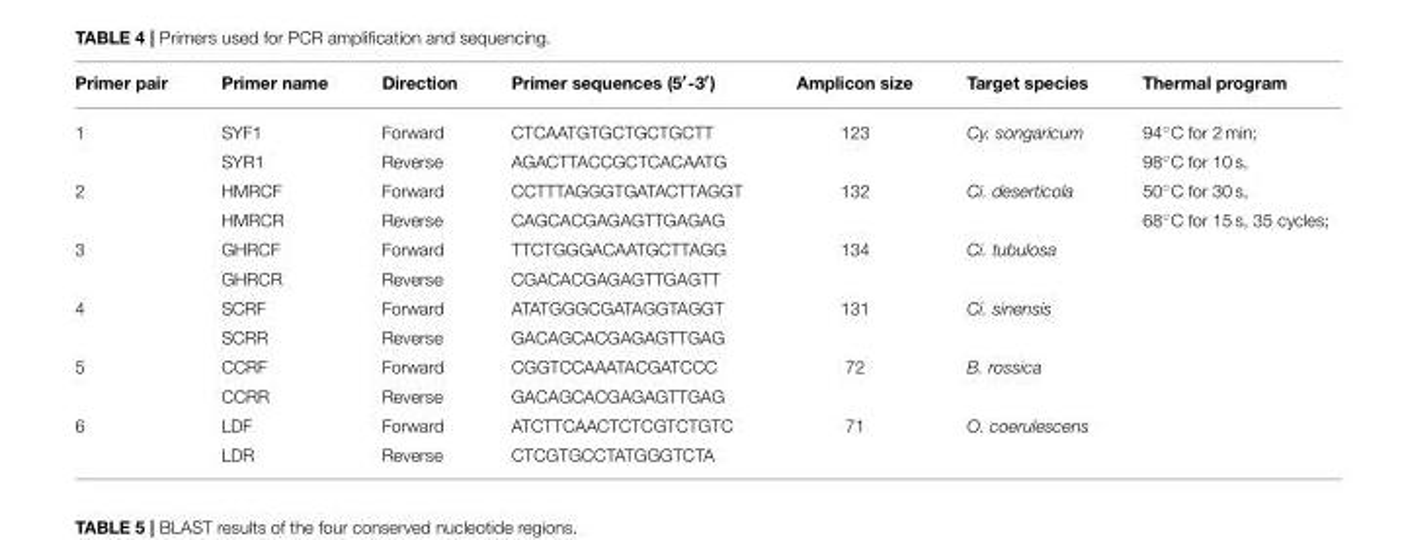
<table><thead><tr><td>Primer pair</td><td>Primer name</td><td>Direction</td><td>Primer sequences (5′-3′)</td><td>Amplicon size</td><td>Target species</td><td>Thermal program</td></tr></thead><tbody><tr><td rowspan="2">1</td><td>SYF1</td><td>Forward</td><td>CTCAATGTGCTGCTGCTT</td><td>123</td><td>Cy. songaricum</td><td>94◦C for 2 min;</td></tr><tr><td>SYR1</td><td>Reverse</td><td>AGACTTACCGCTCACAATG</td><td></td><td></td><td>98◦C for 10 s,</td></tr><tr><td rowspan="2">2</td><td>HMRCF</td><td>Forward</td><td>CCTTTAGGGTGATACTTAGGT</td><td>132</td><td>Ci. deserticola</td><td>50◦C for 30 s,</td></tr><tr><td>HMRCR</td><td>Reverse</td><td>CAGCACGAGAGTTGAGAG</td><td></td><td></td><td>68◦C for 15 s, 35 cycles;</td></tr><tr><td rowspan="2">3</td><td>GHRCF</td><td>Forward</td><td>TTCTGGGACAATGCTTAGG</td><td>134</td><td>Ci. tubulosa</td><td></td></tr><tr><td>GHRCR</td><td>Reverse</td><td>CGACACGAGAGTTGAGTT</td><td></td><td></td><td></td></tr><tr><td rowspan="2">4</td><td>SCRF</td><td>Forward</td><td>ATATGGGCGATAGGTAGGT</td><td>131</td><td>Ci. sinensis</td><td></td></tr><tr><td>SCRR</td><td>Reverse</td><td>GACAGCACGAGAGTTGAG</td><td></td><td></td><td></td></tr><tr><td rowspan="2">5</td><td>CCRF</td><td>Forward</td><td>CGGTCCAAATACGATCCC</td><td>72</td><td>B. rossica</td><td></td></tr><tr><td>CCRR</td><td>Reverse</td><td>GACAGCACGAGAGTTGAG</td><td></td><td></td><td></td></tr><tr><td rowspan="2">6</td><td>LDF</td><td>Forward</td><td>ATCTTCAACTCTCGTCTGTC</td><td>71</td><td>O. coerulescens</td><td></td></tr><tr><td>LDR</td><td>Reverse</td><td>CTCGTGCCTATGGGTCTA</td><td></td><td></td><td></td></tr></tbody></table>